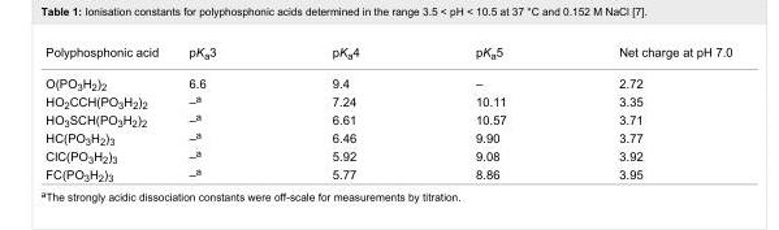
<table><tbody><tr><td>Polyphosphonic acid</td><td>pK<sub>a</sub>3</td><td>pK<sub>a</sub>4</td><td>pK<sub>a</sub>5</td><td>Net charge at pH 7.0</td></tr><tr><td>O(PO<sub>3</sub>H<sub>2</sub>)<sub>2</sub></td><td>6.6</td><td>9.4</td><td>–</td><td>2.72</td></tr><tr><td>HO<sub>2</sub>CCH(PO<sub>3</sub>H<sub>2</sub>)<sub>2</sub></td><td>–<sup>a</sup></td><td>7.24</td><td>10.11</td><td>3.35</td></tr><tr><td>HO<sub>3</sub>SCH(PO<sub>3</sub>H<sub>2</sub>)<sub>2</sub></td><td>–<sup>a</sup></td><td>6.61</td><td>10.57</td><td>3.71</td></tr><tr><td>HC(PO<sub>3</sub>H<sub>2</sub>)<sub>3</sub></td><td>–<sup>a</sup></td><td>6.46</td><td>9.90</td><td>3.77</td></tr><tr><td>ClC(PO<sub>3</sub>H<sub>2</sub>)<sub>3</sub></td><td>–<sup>a</sup></td><td>5.92</td><td>9.08</td><td>3.92</td></tr><tr><td>FC(PO<sub>3</sub>H<sub>2</sub>)<sub>3</sub></td><td>–<sup>a</sup></td><td>5.77</td><td>8.86</td><td>3.95</td></tr></tbody></table>